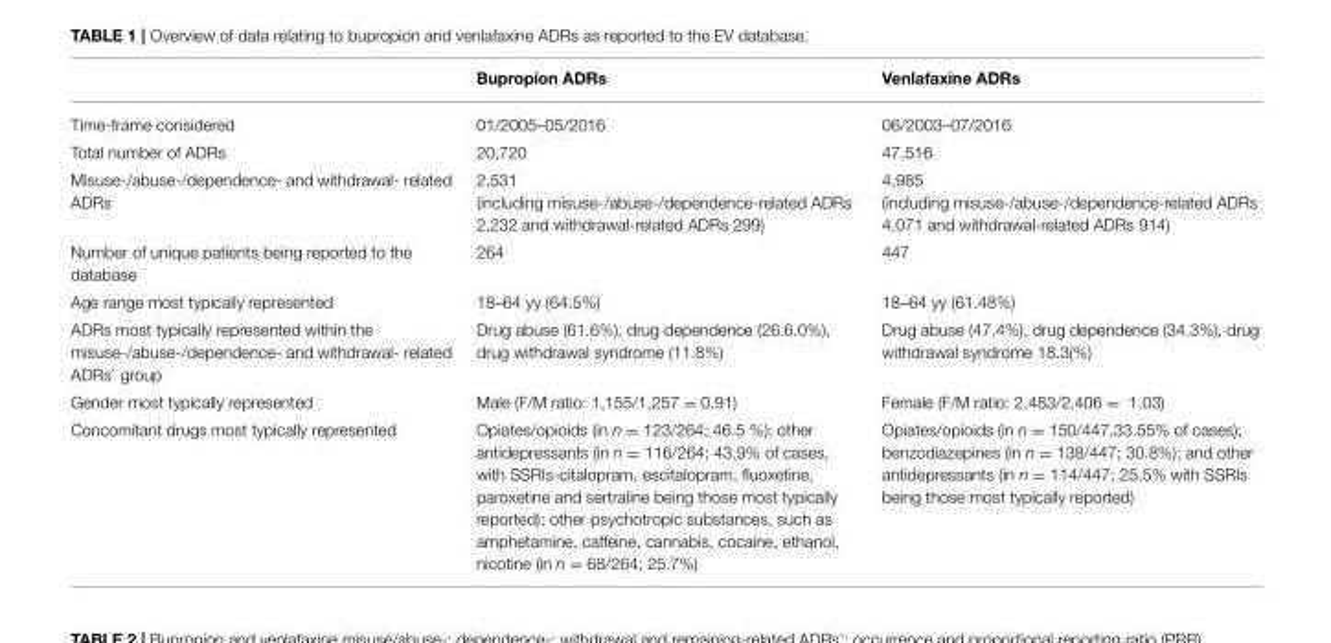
<table><thead><tr><td></td><td>Bupropion ADRs</td><td>Venlafaxine ADRs</td></tr></thead><tbody><tr><td>Time-frame considered</td><td>01/2005–05/2016</td><td>06/2003–07/2016</td></tr><tr><td>Total number of ADRs</td><td>20,720</td><td>47,516</td></tr><tr><td>Misuse-/abuse-/dependence- and withdrawal- related ADRs</td><td>2,531 (including misuse-/abuse-/dependence-related ADRs 2,232 and withdrawal-related ADRs 299)</td><td>4,985 (including misuse-/abuse-/dependence-related ADRs 4,071 and withdrawal-related ADRs 914)</td></tr><tr><td>Number of unique patients being reported to the database</td><td>264</td><td>447</td></tr><tr><td>Age range most typically represented</td><td>18–64 yy (64.5%)</td><td>18–64 yy (61.48%)</td></tr><tr><td>ADRs most typically represented within the misuse-/abuse-/dependence- and withdrawal- related ADRs’ group</td><td>Drug abuse (61.6%), drug dependence (26.6.0%), drug withdrawal syndrome (11.8%)</td><td>Drug abuse (47.4%), drug dependence (34.3%), drug withdrawal syndrome 18.3(%)</td></tr><tr><td>Gender most typically represented</td><td>Male (F/M ratio: 1,155/1,257 = 0.91)</td><td>Female (F/M ratio: 2,483/2,406 = 1.03)</td></tr><tr><td>Concomitant drugs most typically represented</td><td>Opiates/opioids (in n = 123/264; 46.5 %); other antidepressants (in n = 116/264; 43.9% of cases, with SSRIs-citalopram, escitalopram, fluoxetine, paroxetine and sertraline being those most typically reported); other psychotropic substances, such as amphetamine, caffeine, cannabis, cocaine, ethanol, nicotine (in n = 68/264; 25.7%)</td><td>Opiates/opioids (in n = 150/447,33.55% of cases); benzodiazepines (in n = 138/447; 30.8%); and other antidepressants (in n = 114/447; 25.5% with SSRIs being those most typically reported)</td></tr></tbody></table>